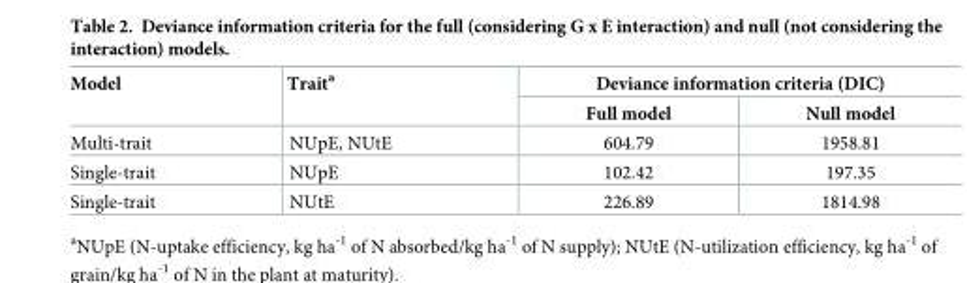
<table><thead><tr><td rowspan="2">Model</td><td rowspan="2">Trait<sup>a</sup></td><td colspan="2">Deviance information criteria (DIC)</td></tr><tr><td>Full model</td><td>Null model</td></tr></thead><tbody><tr><td>Multi-trait</td><td>NUpE, NUtE</td><td>604.79</td><td>1958.81</td></tr><tr><td>Single-trait</td><td>NUpE</td><td>102.42</td><td>197.35</td></tr><tr><td>Single-trait</td><td>NUtE</td><td>226.89</td><td>1814.98</td></tr></tbody></table>